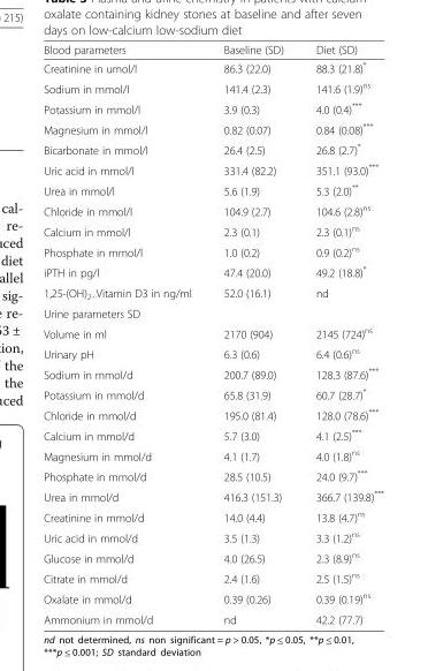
<table><thead><tr><td>Blood parameters</td><td>Baseline (SD)</td><td>Diet (SD)</td></tr></thead><tbody><tr><td>Creatinine in umol/l</td><td>86.3 (22.0)</td><td>88.3 (21.8)*</td></tr><tr><td>Sodium in mmol/l</td><td>141.4 (2.3)</td><td>141.6 (1.9)<sup>ns</sup></td></tr><tr><td>Potassium in mmol/l</td><td>3.9 (0.3)</td><td>4.0 (0.4)***</td></tr><tr><td>Magnesium in mmol/l</td><td>0.82 (0.07)</td><td>0.84 (0.08)***</td></tr><tr><td>Bicarbonate in mmol/l</td><td>26.4 (2.5)</td><td>26.8 (2.7)*</td></tr><tr><td>Uric acid in mmol/l</td><td>331.4 (82.2)</td><td>351.1 (93.0)***</td></tr><tr><td>Urea in mmol/l</td><td>5.6 (1.9)</td><td>5.3 (2.0)**</td></tr><tr><td>Chloride in mmol/l</td><td>104.9 (2.7)</td><td>104.6 (2.8)<sup>ns</sup></td></tr><tr><td>Calcium in mmol/l</td><td>2.3 (0.1)</td><td>2.3 (0.1)<sup>ns</sup></td></tr><tr><td>Phosphate in mmol/l</td><td>1.0 (0.2)</td><td>0.9 (0.2)<sup>ns</sup></td></tr><tr><td>iPTH in pg/l</td><td>47.4 (20.0)</td><td>49.2 (18.8)*</td></tr><tr><td>1,25-(OH)<sub>2−</sub>Vitamin D3 in ng/ml</td><td>52.0 (16.1)</td><td>nd</td></tr><tr><td colspan="3">Urine parameters SD</td></tr><tr><td>Volume in ml</td><td>2170 (904)</td><td>2145 (724)<sup>ns</sup></td></tr><tr><td>Urinary pH</td><td>6.3 (0.6)</td><td>6.4 (0.6)<sup>ns</sup></td></tr><tr><td>Sodium in mmol/d</td><td>200.7 (89.0)</td><td>128.3 (87.6)***</td></tr><tr><td>Potassium in mmol/d</td><td>65.8 (31.9)</td><td>60.7 (28.7)*</td></tr><tr><td>Chloride in mmol/d</td><td>195.0 (81.4)</td><td>128.0 (78.6)***</td></tr><tr><td>Calcium in mmol/d</td><td>5.7 (3.0)</td><td>4.1 (2.5)***</td></tr><tr><td>Magnesium in mmol/d</td><td>4.1 (1.7)</td><td>4.0 (1.8)<sup>ns</sup></td></tr><tr><td>Phosphate in mmol/d</td><td>28.5 (10.5)</td><td>24.0 (9.7)***</td></tr><tr><td>Urea in mmol/d</td><td>416.3 (151.3)</td><td>366.7 (139.8)***</td></tr><tr><td>Creatinine in mmol/d</td><td>14.0 (4.4)</td><td>13.8 (4.7)<sup>ns</sup></td></tr><tr><td>Uric acid in mmol/d</td><td>3.5 (1.3)</td><td>3.3 (1.2)<sup>ns</sup></td></tr><tr><td>Glucose in mmol/d</td><td>4.0 (26.5)</td><td>2.3 (8.9)<sup>ns</sup></td></tr><tr><td>Citrate in mmol/d</td><td>2.4 (1.6)</td><td>2.5 (1.5)<sup>ns</sup></td></tr><tr><td>Oxalate in mmol/d</td><td>0.39 (0.26)</td><td>0.39 (0.19)<sup>ns</sup></td></tr><tr><td>Ammonium in mmol/d</td><td>nd</td><td>42.2 (77.7)</td></tr></tbody></table>